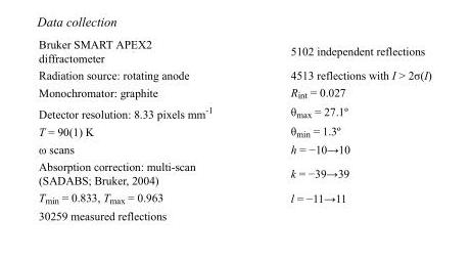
<table><tbody><tr><td>Bruker SMART APEX2 diffractometer</td><td>5102 independent reflections</td></tr><tr><td>Radiation source: rotating anode</td><td>4513 reflections with I &gt; 2σ(I)</td></tr><tr><td>Monochromator: graphite</td><td>R<sub>int</sub> = 0.027</td></tr><tr><td>Detector resolution: 8.33 pixels mm<sup>-1</sup></td><td>θ<sub>max</sub> = 27.1º</td></tr><tr><td>T = 90(1) K</td><td>θ<sub>min</sub> = 1.3º</td></tr><tr><td>ω scans</td><td>h = −10→10</td></tr><tr><td>Absorption correction: multi-scan (SADABS; Bruker, 2004)</td><td>k = −39→39</td></tr><tr><td>T<sub>min</sub> = 0.833, T<sub>max</sub> = 0.963</td><td>l = −11→11</td></tr><tr><td>30259 measured reflections</td><td></td></tr></tbody></table>